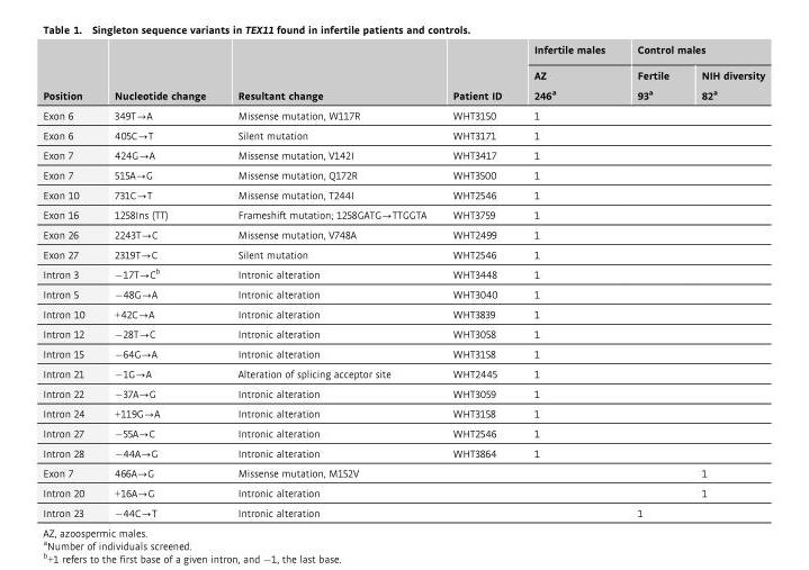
<table><thead><tr><td rowspan="3">Position</td><td rowspan="3">Nucleotide change</td><td rowspan="3">Resultant change</td><td rowspan="3">Patient ID</td><td rowspan="3">Infertile males AZ 246<sup>a</sup></td><td colspan="2">Control males</td></tr><tr><td rowspan="2">Fertile 93<sup>a</sup></td><td rowspan="2">NIH diversity 82<sup>a</sup></td></tr><tr></tr></thead><tbody><tr><td>Exon 6</td><td>349T→A</td><td>Missense mutation, W117R</td><td>WHT3150</td><td>1</td><td></td><td></td></tr><tr><td>Exon 6</td><td>405C→T</td><td>Silent mutation</td><td>WHT3171</td><td>1</td><td></td><td></td></tr><tr><td>Exon 7</td><td>424G→A</td><td>Missense mutation, V142I</td><td>WHT3417</td><td>1</td><td></td><td></td></tr><tr><td>Exon 7</td><td>515A→G</td><td>Missense mutation, Q172R</td><td>WHT3500</td><td>1</td><td></td><td></td></tr><tr><td>Exon 10</td><td>731C→T</td><td>Missense mutation, T244I</td><td>WHT2546</td><td>1</td><td></td><td></td></tr><tr><td>Exon 16</td><td>1258Ins (TT)</td><td>Frameshift mutation; 1258GATG→TTGGTA</td><td>WHT3759</td><td>1</td><td></td><td></td></tr><tr><td>Exon 26</td><td>2243T→C</td><td>Missense mutation, V748A</td><td>WHT2499</td><td>1</td><td></td><td></td></tr><tr><td>Exon 27</td><td>2319T→C</td><td>Silent mutation</td><td>WHT2546</td><td>1</td><td></td><td></td></tr><tr><td>Intron 3</td><td>−17T→C<sup>b</sup></td><td>Intronic alteration</td><td>WHT3448</td><td>1</td><td></td><td></td></tr><tr><td>Intron 5</td><td>−48G→A</td><td>Intronic alteration</td><td>WHT3040</td><td>1</td><td></td><td></td></tr><tr><td>Intron 10</td><td>+42C→A</td><td>Intronic alteration</td><td>WHT3839</td><td>1</td><td></td><td></td></tr><tr><td>Intron 12</td><td>−28T→C</td><td>Intronic alteration</td><td>WHT3058</td><td>1</td><td></td><td></td></tr><tr><td>Intron 15</td><td>−64G→A</td><td>Intronic alteration</td><td>WHT3158</td><td>1</td><td></td><td></td></tr><tr><td>Intron 21</td><td>−1G→A</td><td>Alteration of splicing acceptor site</td><td>WHT2445</td><td>1</td><td></td><td></td></tr><tr><td>Intron 22</td><td>−37A→G</td><td>Intronic alteration</td><td>WHT3059</td><td>1</td><td></td><td></td></tr><tr><td>Intron 24</td><td>+119G→A</td><td>Intronic alteration</td><td>WHT3158</td><td>1</td><td></td><td></td></tr><tr><td>Intron 27</td><td>−55A→C</td><td>Intronic alteration</td><td>WHT2546</td><td>1</td><td></td><td></td></tr><tr><td>Intron 28</td><td>−44A→G</td><td>Intronic alteration</td><td>WHT3864</td><td>1</td><td></td><td></td></tr><tr><td>Exon 7</td><td>466A→G</td><td>Missense mutation, M152V</td><td></td><td></td><td></td><td>1</td></tr><tr><td>Intron 20</td><td>+16A→G</td><td>Intronic alteration</td><td></td><td></td><td></td><td>1</td></tr><tr><td>Intron 23</td><td>−44C→T</td><td>Intronic alteration</td><td></td><td></td><td>1</td><td></td></tr></tbody></table>